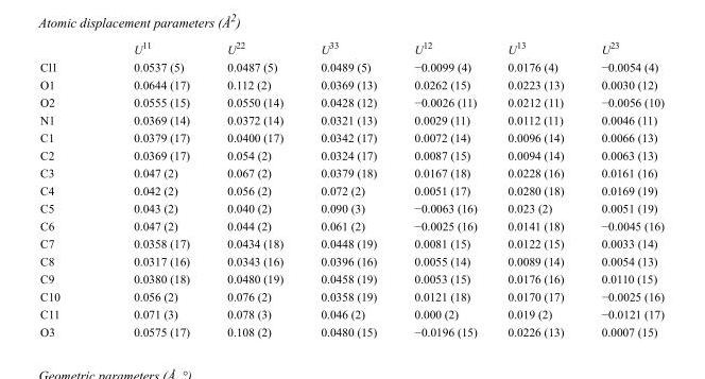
<table><thead><tr><td></td><td>U<sup>11</sup></td><td>U<sup>22</sup></td><td>U<sup>33</sup></td><td>U<sup>12</sup></td><td>U<sup>13</sup></td><td>U<sup>23</sup></td></tr></thead><tbody><tr><td>Cl1</td><td>0.0537 (5)</td><td>0.0487 (5)</td><td>0.0489 (5)</td><td>−0.0099 (4)</td><td>0.0176 (4)</td><td>−0.0054 (4)</td></tr><tr><td>O1</td><td>0.0644 (17)</td><td>0.112 (2)</td><td>0.0369 (13)</td><td>0.0262 (15)</td><td>0.0223 (13)</td><td>0.0030 (12)</td></tr><tr><td>O2</td><td>0.0555 (15)</td><td>0.0550 (14)</td><td>0.0428 (12)</td><td>−0.0026 (11)</td><td>0.0212 (11)</td><td>−0.0056 (10)</td></tr><tr><td>N1</td><td>0.0369 (14)</td><td>0.0372 (14)</td><td>0.0321 (13)</td><td>0.0029 (11)</td><td>0.0112 (11)</td><td>0.0046 (11)</td></tr><tr><td>C1</td><td>0.0379 (17)</td><td>0.0400 (17)</td><td>0.0342 (17)</td><td>0.0072 (14)</td><td>0.0096 (14)</td><td>0.0066 (13)</td></tr><tr><td>C2</td><td>0.0369 (17)</td><td>0.054 (2)</td><td>0.0324 (17)</td><td>0.0087 (15)</td><td>0.0094 (14)</td><td>0.0063 (13)</td></tr><tr><td>C3</td><td>0.047 (2)</td><td>0.067 (2)</td><td>0.0379 (18)</td><td>0.0167 (18)</td><td>0.0228 (16)</td><td>0.0161 (16)</td></tr><tr><td>C4</td><td>0.042 (2)</td><td>0.056 (2)</td><td>0.072 (2)</td><td>0.0051 (17)</td><td>0.0280 (18)</td><td>0.0169 (19)</td></tr><tr><td>C5</td><td>0.043 (2)</td><td>0.040 (2)</td><td>0.090 (3)</td><td>−0.0063 (16)</td><td>0.023 (2)</td><td>0.0051 (19)</td></tr><tr><td>C6</td><td>0.047 (2)</td><td>0.044 (2)</td><td>0.061 (2)</td><td>−0.0025 (16)</td><td>0.0141 (18)</td><td>−0.0045 (16)</td></tr><tr><td>C7</td><td>0.0358 (17)</td><td>0.0434 (18)</td><td>0.0448 (19)</td><td>0.0081 (15)</td><td>0.0122 (15)</td><td>0.0033 (14)</td></tr><tr><td>C8</td><td>0.0317 (16)</td><td>0.0343 (16)</td><td>0.0396 (16)</td><td>0.0055 (14)</td><td>0.0089 (14)</td><td>0.0054 (13)</td></tr><tr><td>C9</td><td>0.0380 (18)</td><td>0.0480 (19)</td><td>0.0458 (19)</td><td>0.0053 (15)</td><td>0.0176 (16)</td><td>0.0110 (15)</td></tr><tr><td>C10</td><td>0.056 (2)</td><td>0.076 (2)</td><td>0.0358 (19)</td><td>0.0121 (18)</td><td>0.0170 (17)</td><td>−0.0025 (16)</td></tr><tr><td>C11</td><td>0.071 (3)</td><td>0.078 (3)</td><td>0.046 (2)</td><td>0.000 (2)</td><td>0.019 (2)</td><td>−0.0121 (17)</td></tr><tr><td>O3</td><td>0.0575 (17)</td><td>0.108 (2)</td><td>0.0480 (15)</td><td>−0.0196 (15)</td><td>0.0226 (13)</td><td>0.0007 (15)</td></tr></tbody></table>